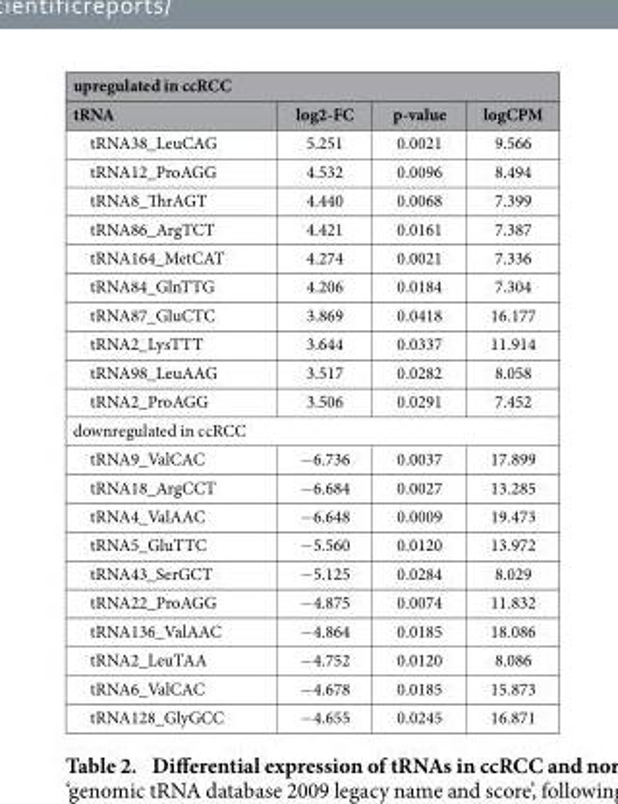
<table><thead><tr><td colspan="4">upregulated in ccRCC</td></tr><tr><td>tRNA</td><td>log2-FC</td><td>p-value</td><td>logCPM</td></tr></thead><tbody><tr><td>tRNA38_LeuCAG</td><td>5.251</td><td>0.0021</td><td>9.566</td></tr><tr><td>tRNA12_ProAGG</td><td>4.532</td><td>0.0096</td><td>8.494</td></tr><tr><td>tRNA8_ThrAGT</td><td>4.440</td><td>0.0068</td><td>7.399</td></tr><tr><td>tRNA86_ArgTCT</td><td>4.421</td><td>0.0161</td><td>7.387</td></tr><tr><td>tRNA164_MetCAT</td><td>4.274</td><td>0.0021</td><td>7.336</td></tr><tr><td>tRNA84_GlnTTG</td><td>4.206</td><td>0.0184</td><td>7.304</td></tr><tr><td>tRNA87_GluCTC</td><td>3.869</td><td>0.0418</td><td>16.177</td></tr><tr><td>tRNA2_LysTTT</td><td>3.644</td><td>0.0337</td><td>11.914</td></tr><tr><td>tRNA98_LeuAAG</td><td>3.517</td><td>0.0282</td><td>8.058</td></tr><tr><td>tRNA2_ProAGG</td><td>3.506</td><td>0.0291</td><td>7.452</td></tr><tr><td colspan="4">downregulated in ccRCC</td></tr><tr><td>tRNA9_ValCAC</td><td>− 6.736</td><td>0.0037</td><td>17.899</td></tr><tr><td>tRNA18_ArgCCT</td><td>− 6.684</td><td>0.0027</td><td>13.285</td></tr><tr><td>tRNA4_ValAAC</td><td>− 6.648</td><td>0.0009</td><td>19.473</td></tr><tr><td>tRNA5_GluTTC</td><td>− 5.560</td><td>0.0120</td><td>13.972</td></tr><tr><td>tRNA43_SerGCT</td><td>− 5.125</td><td>0.0284</td><td>8.029</td></tr><tr><td>tRNA22_ProAGG</td><td>− 4.875</td><td>0.0074</td><td>11.832</td></tr><tr><td>tRNA136_ValAAC</td><td>− 4.864</td><td>0.0185</td><td>18.086</td></tr><tr><td>tRNA2_LeuTAA</td><td>− 4.752</td><td>0.0120</td><td>8.086</td></tr><tr><td>tRNA6_ValCAC</td><td>− 4.678</td><td>0.0185</td><td>15.873</td></tr><tr><td>tRNA128_GlyGCC</td><td>− 4.655</td><td>0.0245</td><td>16.871</td></tr></tbody></table>